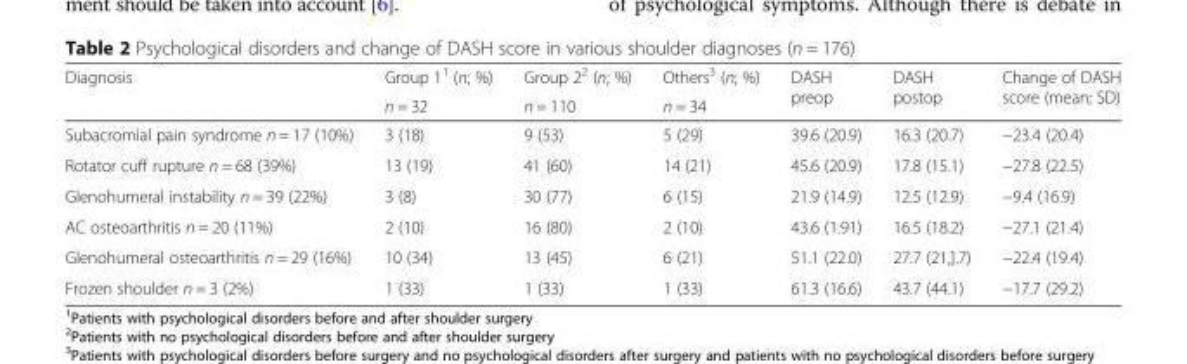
<table><thead><tr><td rowspan="2">Diagnosis</td><td rowspan="2">Group 1<sup>1</sup> (n; %) n = 32</td><td rowspan="2">Group 2<sup>2</sup> (n; %) n = 110</td><td rowspan="2">Others<sup>3</sup> (n; %) n = 34</td><td rowspan="2">DASH preop</td><td rowspan="2">DASH postop</td><td rowspan="2">Change of DASH score (mean; SD)</td></tr><tr></tr></thead><tbody><tr><td>Subacromial pain syndrome n = 17 (10%)</td><td>3 (18)</td><td>9 (53)</td><td>5 (29)</td><td>39.6 (20.9)</td><td>16.3 (20.7)</td><td>−23.4 (20.4)</td></tr><tr><td>Rotator cuff rupture n = 68 (39%)</td><td>13 (19)</td><td>41 (60)</td><td>14 (21)</td><td>45.6 (20.9)</td><td>17.8 (15.1)</td><td>−27.8 (22.5)</td></tr><tr><td>Glenohumeral instability n = 39 (22%)</td><td>3 (8)</td><td>30 (77)</td><td>6 (15)</td><td>21.9 (14.9)</td><td>12.5 (12.9)</td><td>−9.4 (16.9)</td></tr><tr><td>AC osteoarthritis n = 20 (11%)</td><td>2 (10)</td><td>16 (80)</td><td>2 (10)</td><td>43.6 (1.91)</td><td>16.5 (18.2)</td><td>−27.1 (21.4)</td></tr><tr><td>Glenohumeral osteoarthritis n = 29 (16%)</td><td>10 (34)</td><td>13 (45)</td><td>6 (21)</td><td>51.1 (22.0)</td><td>27.7 (21,].7)</td><td>−22.4 (19.4)</td></tr><tr><td>Frozen shoulder n = 3 (2%)</td><td>1 (33)</td><td>1 (33)</td><td>1 (33)</td><td>61.3 (16.6)</td><td>43.7 (44.1)</td><td>−17.7 (29.2)</td></tr></tbody></table>